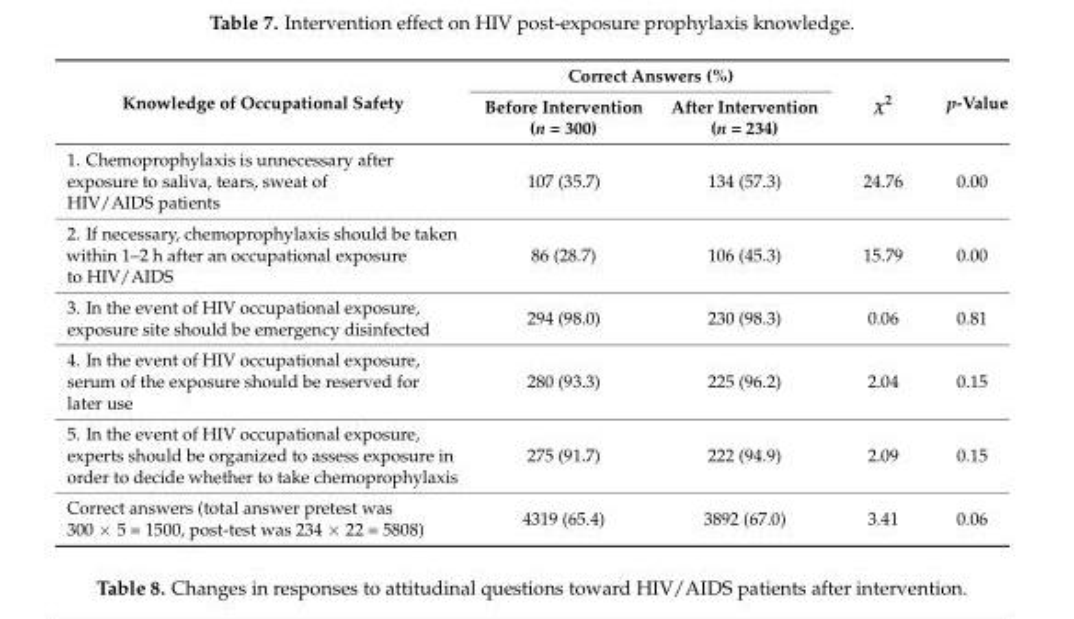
<table><thead><tr><td rowspan="2">Knowledge of Occupational Safety</td><td colspan="2">Correct Answers (%)</td><td rowspan="2">χ<sup>2</sup></td><td rowspan="2">p-Value</td></tr><tr><td>Before Intervention (n = 300)</td><td>After Intervention (n = 234)</td></tr></thead><tbody><tr><td>1. Chemoprophylaxis is unnecessary after exposure to saliva, tears, sweat of HIV/AIDS patients</td><td>107 (35.7)</td><td>134 (57.3)</td><td>24.76</td><td>0.00</td></tr><tr><td>2. If necessary, chemoprophylaxis should be taken within 1–2 h after an occupational exposure to HIV/AIDS</td><td>86 (28.7)</td><td>106 (45.3)</td><td>15.79</td><td>0.00</td></tr><tr><td>3. In the event of HIV occupational exposure, exposure site should be emergency disinfected</td><td>294 (98.0)</td><td>230 (98.3)</td><td>0.06</td><td>0.81</td></tr><tr><td>4. In the event of HIV occupational exposure, serum of the exposure should be reserved for later use</td><td>280 (93.3)</td><td>225 (96.2)</td><td>2.04</td><td>0.15</td></tr><tr><td>5. In the event of HIV occupational exposure, experts should be organized to assess exposure in order to decide whether to take chemoprophylaxis</td><td>275 (91.7)</td><td>222 (94.9)</td><td>2.09</td><td>0.15</td></tr><tr><td>Correct answers (total answer pretest was 300 × 5 = 1500, post-test was 234 × 22 = 5808)</td><td>4319 (65.4)</td><td>3892 (67.0)</td><td>3.41</td><td>0.06</td></tr></tbody></table>